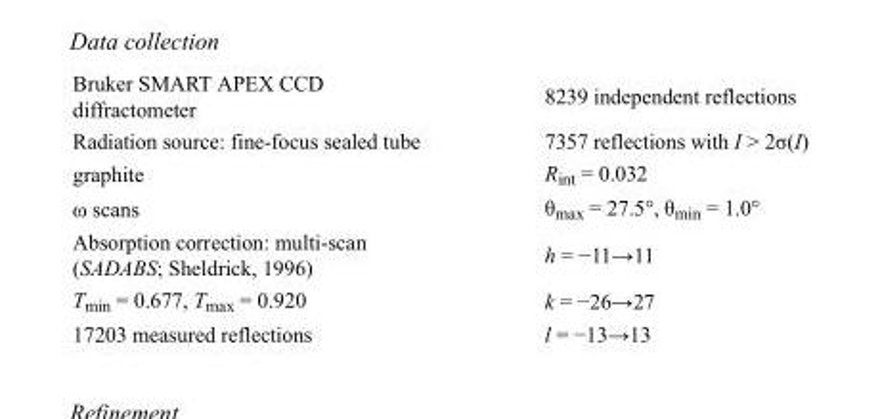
<table><tbody><tr><td>Bruker SMART APEX CCD diffractometer</td><td>8239 independent reflections</td></tr><tr><td>Radiation source: fine-focus sealed tube</td><td>7357 reflections with I &gt; 2σ(I)</td></tr><tr><td>graphite</td><td>R<sub>int</sub> = 0.032</td></tr><tr><td>ω scans</td><td>θ<sub>max</sub> = 27.5°, θ<sub>min</sub> = 1.0°</td></tr><tr><td>Absorption correction: multi-scan (SADABS; Sheldrick, 1996)</td><td>h = −11→11</td></tr><tr><td>T<sub>min</sub> = 0.677, T<sub>max</sub> = 0.920</td><td>k = −26→27</td></tr><tr><td>17203 measured reflections</td><td>l = −13→13</td></tr></tbody></table>